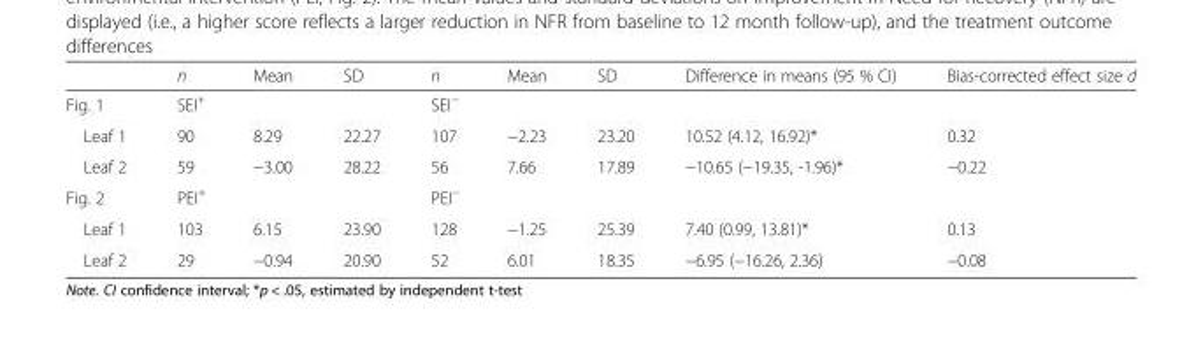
<table><thead><tr><td></td><td>n</td><td>Mean</td><td>SD</td><td>n</td><td>Mean</td><td>SD</td><td>Difference in means (95 % CI)</td><td>Bias-corrected effect size d</td></tr></thead><tbody><tr><td>Fig. 1</td><td colspan="3">SEI<sup>+</sup></td><td colspan="3">SEI<sup>−</sup></td><td colspan="2"></td></tr><tr><td>Leaf 1</td><td>90</td><td>8.29</td><td>22.27</td><td>107</td><td>−2.23</td><td>23.20</td><td>10.52 (4.12, 16.92)*</td><td>0.32</td></tr><tr><td>Leaf 2</td><td>59</td><td>−3.00</td><td>28.22</td><td>56</td><td>7.66</td><td>17.89</td><td>−10.65 (−19.35, -1.96)*</td><td>−0.22</td></tr><tr><td>Fig. 2</td><td colspan="3">PEI<sup>+</sup></td><td colspan="3">PEI<sup>−</sup></td><td colspan="2"></td></tr><tr><td>Leaf 1</td><td>103</td><td>6.15</td><td>23.90</td><td>128</td><td>−1.25</td><td>25.39</td><td>7.40 (0.99, 13.81)*</td><td>0.13</td></tr><tr><td>Leaf 2</td><td>29</td><td>−0.94</td><td>20.90</td><td>52</td><td>6.01</td><td>18.35</td><td>−6.95 (−16.26, 2.36)</td><td>−0.08</td></tr></tbody></table>